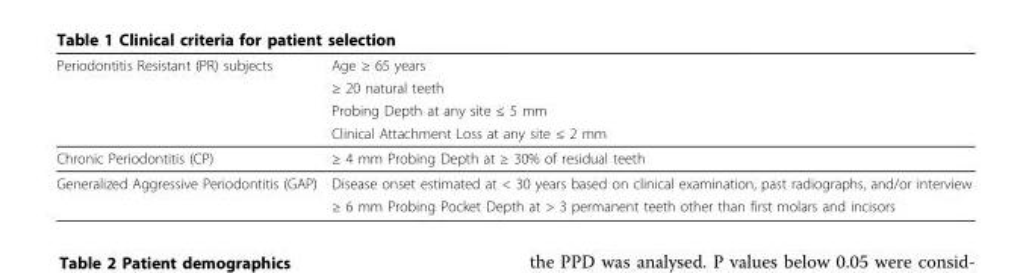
<table><thead><tr><td rowspan="4">Periodontitis Resistant (PR) subjects</td><td rowspan="4">Age ≥ 65 years ≥ 20 natural teeth Probing Depth at any site ≤ 5 mm Clinical Attachment Loss at any site ≤ 2 mm</td></tr><tr></tr><tr></tr><tr></tr></thead><tbody><tr><td>Chronic Periodontitis (CP)</td><td>≥ 4 mm Probing Depth at ≥ 30% of residual teeth</td></tr><tr><td rowspan="2">Generalized Aggressive Periodontitis (GAP)</td><td>Disease onset estimated at &lt; 30 years based on clinical examination, past radiographs, and/or interview</td></tr><tr><td>≥ 6 mm Probing Pocket Depth at &gt; 3 permanent teeth other than first molars and incisors</td></tr></tbody></table>